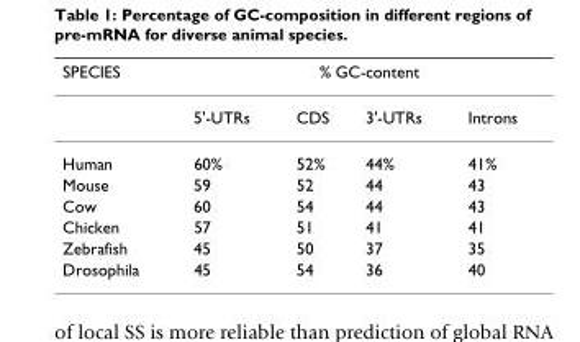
<table><thead><tr><td rowspan="2">SPECIES</td><td colspan="4">% GC-content</td></tr><tr><td>5&#x27;-UTRs</td><td>CDS</td><td>3&#x27;-UTRs</td><td>Introns</td></tr></thead><tbody><tr><td>Human</td><td>60%</td><td>52%</td><td>44%</td><td>41%</td></tr><tr><td>Mouse</td><td>59</td><td>52</td><td>44</td><td>43</td></tr><tr><td>Cow</td><td>60</td><td>54</td><td>44</td><td>43</td></tr><tr><td>Chicken</td><td>57</td><td>51</td><td>41</td><td>41</td></tr><tr><td>Zebrafish</td><td>45</td><td>50</td><td>37</td><td>35</td></tr><tr><td>Drosophila</td><td>45</td><td>54</td><td>36</td><td>40</td></tr></tbody></table>